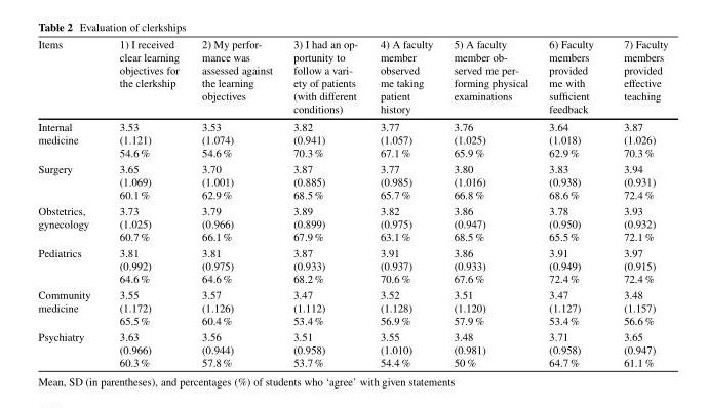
<table><thead><tr><td>Items</td><td>1) I received clear learning objectives for the clerkship</td><td>2) My perfor- mance was assessed against the learning objectives</td><td>3) I had an op- portunity to follow a vari- ety of patients (with different conditions)</td><td>4) A faculty member observed me taking patient history</td><td>5) A faculty member ob- served me per- forming physical examinations</td><td>6) Faculty members provided me with sufficient feedback</td><td>7) Faculty members provided effective teaching</td></tr></thead><tbody><tr><td>Internal medicine</td><td>3.53 (1.121) 54.6 %</td><td>3.53 (1.074) 54.6 %</td><td>3.82 (0.941) 70.3 %</td><td>3.77 (1.057) 67.1 %</td><td>3.76 (1.025) 65.9 %</td><td>3.64 (1.018) 62.9 %</td><td>3.87 (1.026) 70.3 %</td></tr><tr><td>Surgery</td><td>3.65 (1.069) 60.1 %</td><td>3.70 (1.001) 62.9 %</td><td>3.87 (0.885) 68.5 %</td><td>3.77 (0.985) 65.7 %</td><td>3.80 (1.016) 66.8 %</td><td>3.83 (0.938) 68.6 %</td><td>3.94 (0.931) 72.4 %</td></tr><tr><td>Obstetrics, gynecology</td><td>3.73 (1.025) 60.7 %</td><td>3.79 (0.966) 66.1 %</td><td>3.89 (0.899) 67.9 %</td><td>3.82 (0.975) 63.1 %</td><td>3.86 (0.947) 68.5 %</td><td>3.78 (0.950) 65.5 %</td><td>3.93 (0.932) 72.1 %</td></tr><tr><td>Pediatrics</td><td>3.81 (0.992) 64.6 %</td><td>3.81 (0.975) 64.6 %</td><td>3.87 (0.933) 68.2 %</td><td>3.91 (0.937) 70.6 %</td><td>3.86 (0.933) 67.6 %</td><td>3.91 (0.949) 72.4 %</td><td>3.97 (0.915) 72.4 %</td></tr><tr><td>Community medicine</td><td>3.55 (1.172) 65.5 %</td><td>3.57 (1.126) 60.4 %</td><td>3.47 (1.112) 53.4 %</td><td>3.52 (1.128) 56.9 %</td><td>3.51 (1.120) 57.9 %</td><td>3.47 (1.127) 53.4 %</td><td>3.48 (1.157) 56.6 %</td></tr><tr><td>Psychiatry</td><td>3.63 (0.966) 60.3 %</td><td>3.56 (0.944) 57.8 %</td><td>3.51 (0.958) 53.7 %</td><td>3.55 (1.010) 54.4 %</td><td>3.48 (0.981) 50 %</td><td>3.71 (0.958) 64.7 %</td><td>3.65 (0.947) 61.1 %</td></tr></tbody></table>